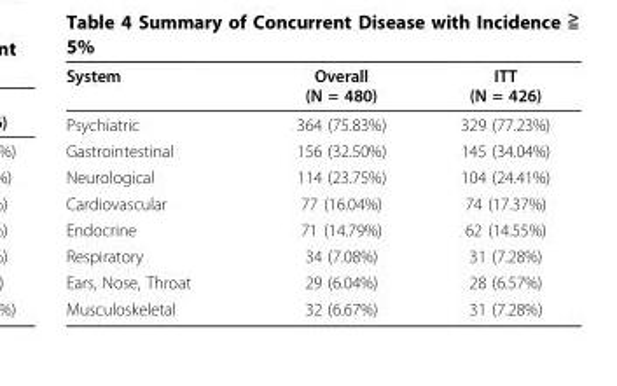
<table><thead><tr><td>System</td><td>Overall (N = 480)</td><td>ITT (N = 426)</td></tr></thead><tbody><tr><td>Psychiatric</td><td>364 (75.83%)</td><td>329 (77.23%)</td></tr><tr><td>Gastrointestinal</td><td>156 (32.50%)</td><td>145 (34.04%)</td></tr><tr><td>Neurological</td><td>114 (23.75%)</td><td>104 (24.41%)</td></tr><tr><td>Cardiovascular</td><td>77 (16.04%)</td><td>74 (17.37%)</td></tr><tr><td>Endocrine</td><td>71 (14.79%)</td><td>62 (14.55%)</td></tr><tr><td>Respiratory</td><td>34 (7.08%)</td><td>31 (7.28%)</td></tr><tr><td>Ears, Nose, Throat</td><td>29 (6.04%)</td><td>28 (6.57%)</td></tr><tr><td>Musculoskeletal</td><td>32 (6.67%)</td><td>31 (7.28%)</td></tr></tbody></table>